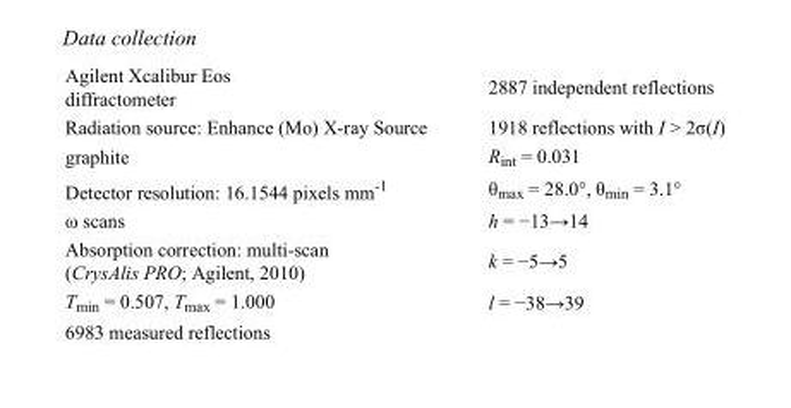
<table><tbody><tr><td>Agilent Xcalibur Eos diffractometer</td><td>2887 independent reflections</td></tr><tr><td>Radiation source: Enhance (Mo) X-ray Source</td><td>1918 reflections with I &gt; 2σ(I)</td></tr><tr><td>graphite</td><td>R<sub>int</sub> = 0.031</td></tr><tr><td>Detector resolution: 16.1544 pixels mm<sup>-1</sup></td><td>θ<sub>max</sub> = 28.0°, θ<sub>min</sub> = 3.1°</td></tr><tr><td>ω scans</td><td>h = −13→14</td></tr><tr><td>Absorption correction: multi-scan (CrysAlis PRO; Agilent, 2010)</td><td>k = −5→5</td></tr><tr><td>T<sub>min</sub> = 0.507, T<sub>max</sub> = 1.000</td><td>l = −38→39</td></tr><tr><td>6983 measured reflections</td><td></td></tr></tbody></table>